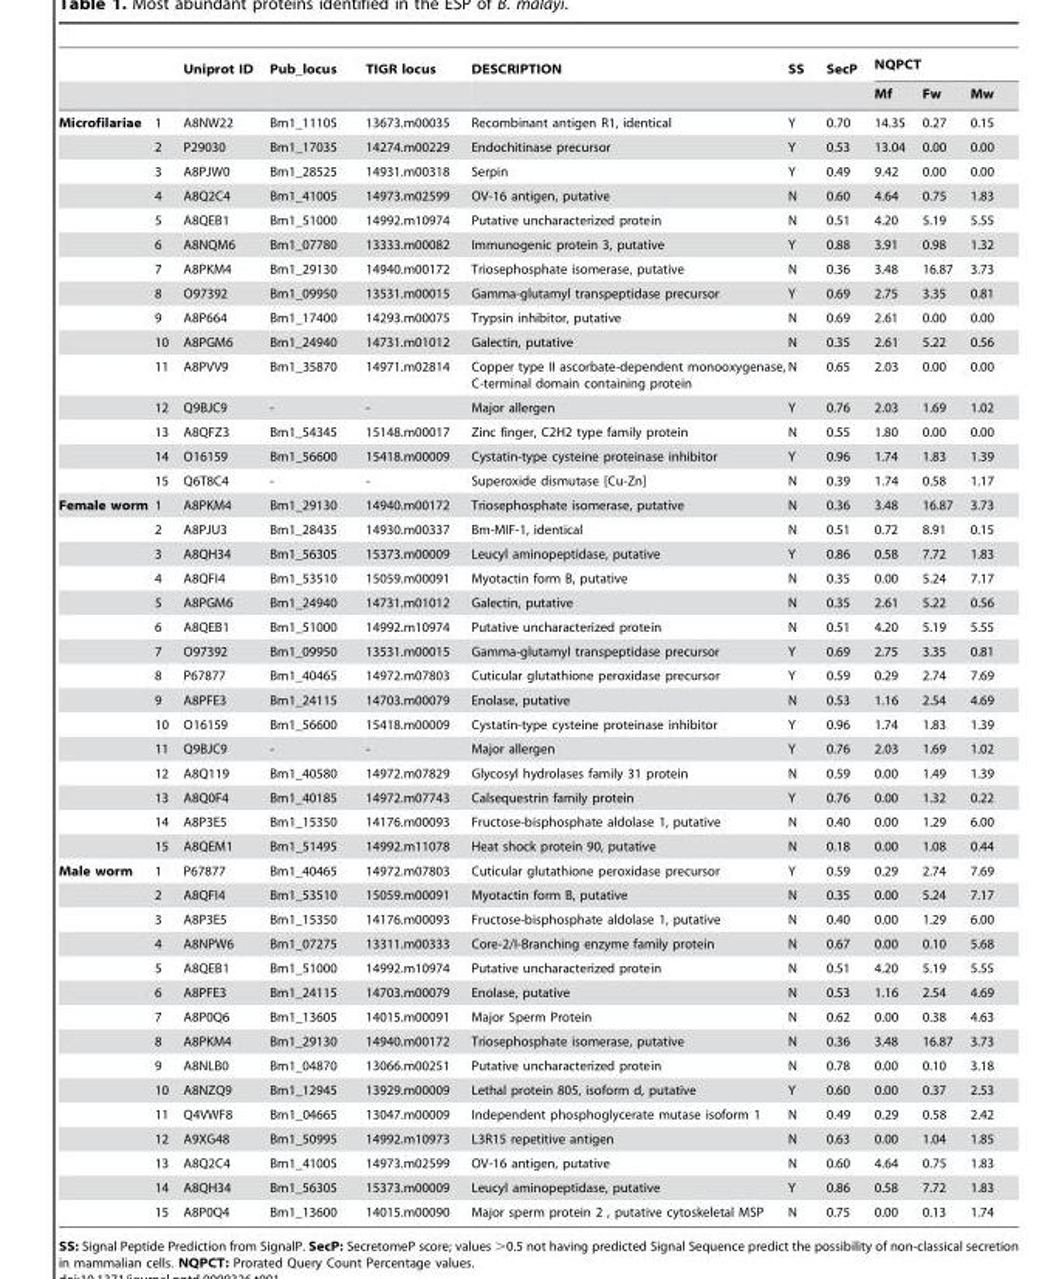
<table><thead><tr><td rowspan="2"></td><td rowspan="2"></td><td rowspan="2">Uniprot ID</td><td rowspan="2">Pub_locus</td><td rowspan="2">TIGR locus</td><td rowspan="2">DESCRIPTION</td><td rowspan="2">SS</td><td rowspan="2">SecP</td><td colspan="3">NQPCT</td></tr><tr><td>Mf</td><td>Fw</td><td>Mw</td></tr></thead><tbody><tr><td rowspan="15">Microfilariae</td><td>1</td><td>A8NW22</td><td>Bm1_11105</td><td>13673.m00035</td><td>Recombinant antigen R1, identical</td><td>Y</td><td>0.70</td><td>14.35</td><td>0.27</td><td>0.15</td></tr><tr><td>2</td><td>P29030</td><td>Bm1_17035</td><td>14274.m00229</td><td>Endochitinase precursor</td><td>Y</td><td>0.53</td><td>13.04</td><td>0.00</td><td>0.00</td></tr><tr><td>3</td><td>A8PJW0</td><td>Bm1_28525</td><td>14931.m00318</td><td>Serpin</td><td>Y</td><td>0.49</td><td>9.42</td><td>0.00</td><td>0.00</td></tr><tr><td>4</td><td>A8Q2C4</td><td>Bm1_41005</td><td>14973.m02599</td><td>OV-16 antigen, putative</td><td>N</td><td>0.60</td><td>4.64</td><td>0.75</td><td>1.83</td></tr><tr><td>5</td><td>A8QEB1</td><td>Bm1_51000</td><td>14992.m10974</td><td>Putative uncharacterized protein</td><td>N</td><td>0.51</td><td>4.20</td><td>5.19</td><td>5.55</td></tr><tr><td>6</td><td>A8NQM6</td><td>Bm1_07780</td><td>13333.m00082</td><td>Immunogenic protein 3, putative</td><td>Y</td><td>0.88</td><td>3.91</td><td>0.98</td><td>1.32</td></tr><tr><td>7</td><td>A8PKM4</td><td>Bm1_29130</td><td>14940.m00172</td><td>Triosephosphate isomerase, putative</td><td>N</td><td>0.36</td><td>3.48</td><td>16.87</td><td>3.73</td></tr><tr><td>8</td><td>O97392</td><td>Bm1_09950</td><td>13531.m00015</td><td>Gamma-glutamyl transpeptidase precursor</td><td>Y</td><td>0.69</td><td>2.75</td><td>3.35</td><td>0.81</td></tr><tr><td>9</td><td>A8P664</td><td>Bm1_17400</td><td>14293.m00075</td><td>Trypsin inhibitor, putative</td><td>N</td><td>0.69</td><td>2.61</td><td>0.00</td><td>0.00</td></tr><tr><td>10</td><td>A8PGM6</td><td>Bm1_24940</td><td>14731.m01012</td><td>Galectin, putative</td><td>N</td><td>0.35</td><td>2.61</td><td>5.22</td><td>0.56</td></tr><tr><td>11</td><td>A8PVV9</td><td>Bm1_35870</td><td>14971.m02814</td><td>Copper type II ascorbate-dependent monooxygenase, C-terminal domain containing protein</td><td>N</td><td>0.65</td><td>2.03</td><td>0.00</td><td>0.00</td></tr><tr><td>12</td><td>Q9BJC9</td><td>-</td><td>-</td><td>Major allergen</td><td>Y</td><td>0.76</td><td>2.03</td><td>1.69</td><td>1.02</td></tr><tr><td>13</td><td>A8QFZ3</td><td>Bm1_54345</td><td>15148.m00017</td><td>Zinc finger, C2H2 type family protein</td><td>N</td><td>0.55</td><td>1.80</td><td>0.00</td><td>0.00</td></tr><tr><td>14</td><td>O16159</td><td>Bm1_56600</td><td>15418.m00009</td><td>Cystatin-type cysteine proteinase inhibitor</td><td>Y</td><td>0.96</td><td>1.74</td><td>1.83</td><td>1.39</td></tr><tr><td>15</td><td>Q6T8C4</td><td>-</td><td>-</td><td>Superoxide dismutase [Cu-Zn]</td><td>N</td><td>0.39</td><td>1.74</td><td>0.58</td><td>1.17</td></tr><tr><td rowspan="15">Female worm</td><td>1</td><td>A8PKM4</td><td>Bm1_29130</td><td>14940.m00172</td><td>Triosephosphate isomerase, putative</td><td>N</td><td>0.36</td><td>3.48</td><td>16.87</td><td>3.73</td></tr><tr><td>2</td><td>A8PJU3</td><td>Bm1_28435</td><td>14930.m00337</td><td>Bm-MIF-1, identical</td><td>N</td><td>0.51</td><td>0.72</td><td>8.91</td><td>0.15</td></tr><tr><td>3</td><td>A8QH34</td><td>Bm1_56305</td><td>15373.m00009</td><td>Leucyl aminopeptidase, putative</td><td>Y</td><td>0.86</td><td>0.58</td><td>7.72</td><td>1.83</td></tr><tr><td>4</td><td>A8QFI4</td><td>Bm1_53510</td><td>15059.m00091</td><td>Myotactin form B, putative</td><td>N</td><td>0.35</td><td>0.00</td><td>5.24</td><td>7.17</td></tr><tr><td>5</td><td>A8PGM6</td><td>Bm1_24940</td><td>14731.m01012</td><td>Galectin, putative</td><td>N</td><td>0.35</td><td>2.61</td><td>5.22</td><td>0.56</td></tr><tr><td>6</td><td>A8QEB1</td><td>Bm1_51000</td><td>14992.m10974</td><td>Putative uncharacterized protein</td><td>N</td><td>0.51</td><td>4.20</td><td>5.19</td><td>5.55</td></tr><tr><td>7</td><td>O97392</td><td>Bm1_09950</td><td>13531.m00015</td><td>Gamma-glutamyl transpeptidase precursor</td><td>Y</td><td>0.69</td><td>2.75</td><td>3.35</td><td>0.81</td></tr><tr><td>8</td><td>P67877</td><td>Bm1_40465</td><td>14972.m07803</td><td>Cuticular glutathione peroxidase precursor</td><td>Y</td><td>0.59</td><td>0.29</td><td>2.74</td><td>7.69</td></tr><tr><td>9</td><td>A8PFE3</td><td>Bm1_24115</td><td>14703.m00079</td><td>Enolase, putative</td><td>N</td><td>0.53</td><td>1.16</td><td>2.54</td><td>4.69</td></tr><tr><td>10</td><td>O16159</td><td>Bm1_56600</td><td>15418.m00009</td><td>Cystatin-type cysteine proteinase inhibitor</td><td>Y</td><td>0.96</td><td>1.74</td><td>1.83</td><td>1.39</td></tr><tr><td>11</td><td>Q9BJC9</td><td>-</td><td>-</td><td>Major allergen</td><td>Y</td><td>0.76</td><td>2.03</td><td>1.69</td><td>1.02</td></tr><tr><td>12</td><td>A8Q119</td><td>Bm1_40580</td><td>14972.m07829</td><td>Glycosyl hydrolases family 31 protein</td><td>N</td><td>0.59</td><td>0.00</td><td>1.49</td><td>1.39</td></tr><tr><td>13</td><td>A8Q0F4</td><td>Bm1_40185</td><td>14972.m07743</td><td>Calsequestrin family protein</td><td>Y</td><td>0.76</td><td>0.00</td><td>1.32</td><td>0.22</td></tr><tr><td>14</td><td>A8P3E5</td><td>Bm1_15350</td><td>14176.m00093</td><td>Fructose-bisphosphate aldolase 1, putative</td><td>N</td><td>0.40</td><td>0.00</td><td>1.29</td><td>6.00</td></tr><tr><td>15</td><td>A8QEM1</td><td>Bm1_51495</td><td>14992.m11078</td><td>Heat shock protein 90, putative</td><td>N</td><td>0.18</td><td>0.00</td><td>1.08</td><td>0.44</td></tr><tr><td rowspan="15">Male worm</td><td>1</td><td>P67877</td><td>Bm1_40465</td><td>14972.m07803</td><td>Cuticular glutathione peroxidase precursor</td><td>Y</td><td>0.59</td><td>0.29</td><td>2.74</td><td>7.69</td></tr><tr><td>2</td><td>A8QFI4</td><td>Bm1_53510</td><td>15059.m00091</td><td>Myotactin form B, putative</td><td>N</td><td>0.35</td><td>0.00</td><td>5.24</td><td>7.17</td></tr><tr><td>3</td><td>A8P3E5</td><td>Bm1_15350</td><td>14176.m00093</td><td>Fructose-bisphosphate aldolase 1, putative</td><td>N</td><td>0.40</td><td>0.00</td><td>1.29</td><td>6.00</td></tr><tr><td>4</td><td>A8NPW6</td><td>Bm1_07275</td><td>13311.m00333</td><td>Core-2/I-Branching enzyme family protein</td><td>N</td><td>0.67</td><td>0.00</td><td>0.10</td><td>5.68</td></tr><tr><td>5</td><td>A8QEB1</td><td>Bm1_51000</td><td>14992.m10974</td><td>Putative uncharacterized protein</td><td>N</td><td>0.51</td><td>4.20</td><td>5.19</td><td>5.55</td></tr><tr><td>6</td><td>A8PFE3</td><td>Bm1_24115</td><td>14703.m00079</td><td>Enolase, putative</td><td>N</td><td>0.53</td><td>1.16</td><td>2.54</td><td>4.69</td></tr><tr><td>7</td><td>A8P0Q6</td><td>Bm1_13605</td><td>14015.m00091</td><td>Major Sperm Protein</td><td>N</td><td>0.62</td><td>0.00</td><td>0.38</td><td>4.63</td></tr><tr><td>8</td><td>A8PKM4</td><td>Bm1_29130</td><td>14940.m00172</td><td>Triosephosphate isomerase, putative</td><td>N</td><td>0.36</td><td>3.48</td><td>16.87</td><td>3.73</td></tr><tr><td>9</td><td>A8NLB0</td><td>Bm1_04870</td><td>13066.m00251</td><td>Putative uncharacterized protein</td><td>N</td><td>0.78</td><td>0.00</td><td>0.10</td><td>3.18</td></tr><tr><td>10</td><td>A8NZQ9</td><td>Bm1_12945</td><td>13929.m00009</td><td>Lethal protein 805, isoform d, putative</td><td>Y</td><td>0.60</td><td>0.00</td><td>0.37</td><td>2.53</td></tr><tr><td>11</td><td>Q4VWF8</td><td>Bm1_04665</td><td>13047.m00009</td><td>Independent phosphoglycerate mutase isoform 1</td><td>N</td><td>0.49</td><td>0.29</td><td>0.58</td><td>2.42</td></tr><tr><td>12</td><td>A9XG48</td><td>Bm1_50995</td><td>14992.m10973</td><td>L3R15 repetitive antigen</td><td>N</td><td>0.63</td><td>0.00</td><td>1.04</td><td>1.85</td></tr><tr><td>13</td><td>A8Q2C4</td><td>Bm1_41005</td><td>14973.m02599</td><td>OV-16 antigen, putative</td><td>N</td><td>0.60</td><td>4.64</td><td>0.75</td><td>1.83</td></tr><tr><td>14</td><td>A8QH34</td><td>Bm1_56305</td><td>15373.m00009</td><td>Leucyl aminopeptidase, putative</td><td>Y</td><td>0.86</td><td>0.58</td><td>7.72</td><td>1.83</td></tr><tr><td>15</td><td>A8P0Q4</td><td>Bm1_13600</td><td>14015.m00090</td><td>Major sperm protein 2 , putative cytoskeletal MSP</td><td>N</td><td>0.75</td><td>0.00</td><td>0.13</td><td>1.74</td></tr></tbody></table>